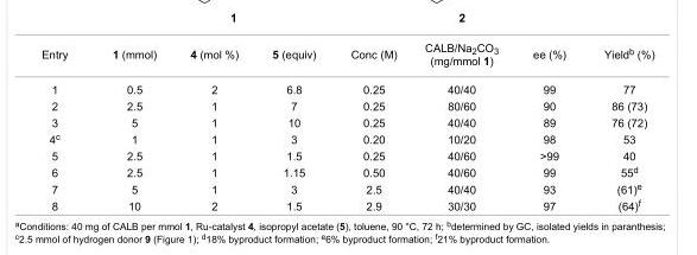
<table><tbody><tr><td>Entry</td><td>1 (mmol)</td><td>4 (mol %)</td><td>5 (equiv)</td><td>Conc (M)</td><td>CALB/Na<sub>2</sub>CO<sub>3</sub> (mg/mmol 1)</td><td>ee (%)</td><td>Yield<sup>b</sup> (%)</td></tr><tr><td>1</td><td>0.5</td><td>2</td><td>6.8</td><td>0.25</td><td>40/40</td><td>99</td><td>77</td></tr><tr><td>2</td><td>2.5</td><td>1</td><td>7</td><td>0.25</td><td>80/60</td><td>90</td><td>86 (73)</td></tr><tr><td>3</td><td>5</td><td>1</td><td>10</td><td>0.25</td><td>40/40</td><td>89</td><td>76 (72)</td></tr><tr><td>4<sup>c</sup></td><td>1</td><td>1</td><td>3</td><td>0.20</td><td>10/20</td><td>98</td><td>53</td></tr><tr><td>5</td><td>2.5</td><td>1</td><td>1.5</td><td>0.25</td><td>40/60</td><td>&gt;99</td><td>40</td></tr><tr><td>6</td><td>2.5</td><td>1</td><td>1.15</td><td>0.50</td><td>40/60</td><td>99</td><td>55<sup>d</sup></td></tr><tr><td>7</td><td>5</td><td>1</td><td>3</td><td>2.5</td><td>40/40</td><td>93</td><td>(61)<sup>e</sup></td></tr><tr><td>8</td><td>10</td><td>2</td><td>1.5</td><td>2.9</td><td>30/30</td><td>97</td><td>(64)<sup>f</sup></td></tr></tbody></table>